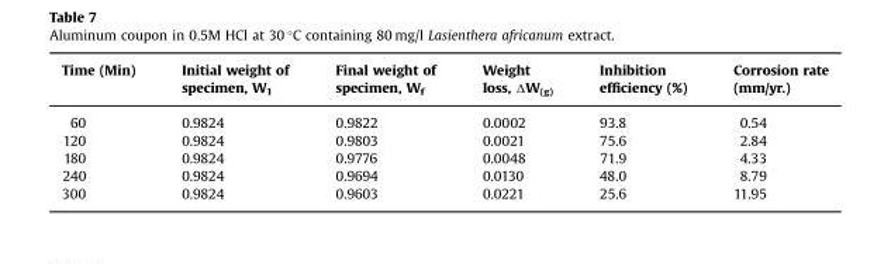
<table><thead><tr><td>Time (Min)</td><td>Initial weight of specimen, W<sub>1</sub></td><td>Final weight of specimen, W<sub>f</sub></td><td>Weight loss, ΔW(g)</td><td>Inhibition efficiency (%)</td><td>Corrosion rate (mm/yr.)</td></tr></thead><tbody><tr><td>60</td><td>0.9824</td><td>0.9822</td><td>0.0002</td><td>93.8</td><td>0.54</td></tr><tr><td>120</td><td>0.9824</td><td>0.9803</td><td>0.0021</td><td>75.6</td><td>2.84</td></tr><tr><td>180</td><td>0.9824</td><td>0.9776</td><td>0.0048</td><td>71.9</td><td>4.33</td></tr><tr><td>240</td><td>0.9824</td><td>0.9694</td><td>0.0130</td><td>48.0</td><td>8.79</td></tr><tr><td>300</td><td>0.9824</td><td>0.9603</td><td>0.0221</td><td>25.6</td><td>11.95</td></tr></tbody></table>